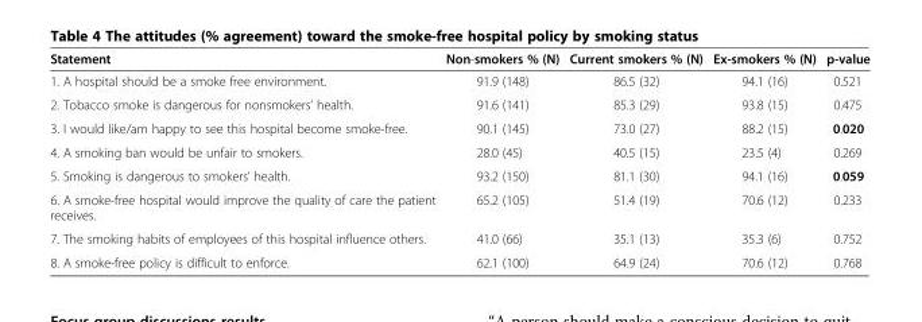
<table><thead><tr><td>Statement</td><td>Non-smokers % (N)</td><td>Current smokers % (N)</td><td>Ex-smokers % (N)</td><td>p-value</td></tr></thead><tbody><tr><td>1. A hospital should be a smoke free environment.</td><td>91.9 (148)</td><td>86.5 (32)</td><td>94.1 (16)</td><td>0.521</td></tr><tr><td>2. Tobacco smoke is dangerous for nonsmokers’ health.</td><td>91.6 (141)</td><td>85.3 (29)</td><td>93.8 (15)</td><td>0.475</td></tr><tr><td>3. I would like/am happy to see this hospital become smoke-free.</td><td>90.1 (145)</td><td>73.0 (27)</td><td>88.2 (15)</td><td>0.020</td></tr><tr><td>4. A smoking ban would be unfair to smokers.</td><td>28.0 (45)</td><td>40.5 (15)</td><td>23.5 (4)</td><td>0.269</td></tr><tr><td>5. Smoking is dangerous to smokers’ health.</td><td>93.2 (150)</td><td>81.1 (30)</td><td>94.1 (16)</td><td>0.059</td></tr><tr><td>6. A smoke-free hospital would improve the quality of care the patient receives.</td><td>65.2 (105)</td><td>51.4 (19)</td><td>70.6 (12)</td><td>0.233</td></tr><tr><td>7. The smoking habits of employees of this hospital influence others.</td><td>41.0 (66)</td><td>35.1 (13)</td><td>35.3 (6)</td><td>0.752</td></tr><tr><td>8. A smoke-free policy is difficult to enforce.</td><td>62.1 (100)</td><td>64.9 (24)</td><td>70.6 (12)</td><td>0.768</td></tr></tbody></table>